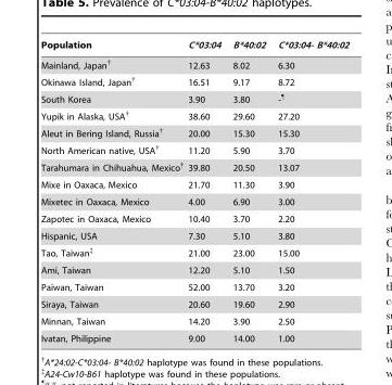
<table><thead><tr><td>Population</td><td>C*03:04</td><td>B*40:02</td><td>C*03:04- B*40:02</td></tr></thead><tbody><tr><td>Mainland, Japan†</td><td>12.63</td><td>8.02</td><td>6.30</td></tr><tr><td>Okinawa Island, Japan†</td><td>16.51</td><td>9.17</td><td>8.72</td></tr><tr><td>South Korea</td><td>3.90</td><td>3.80</td><td>-¶</td></tr><tr><td>Yupik in Alaska, USA†</td><td>38.60</td><td>29.60</td><td>27.20</td></tr><tr><td>Aleut in Bering Island, Russia†</td><td>20.00</td><td>15.30</td><td>15.30</td></tr><tr><td>North American native, USA†</td><td>11.20</td><td>5.90</td><td>3.70</td></tr><tr><td>Tarahumara in Chihuahua, Mexico†</td><td>39.80</td><td>20.50</td><td>13.07</td></tr><tr><td>Mixe in Oaxaca, Mexico</td><td>21.70</td><td>11.30</td><td>3.90</td></tr><tr><td>Mixetec in Oaxaca, Mexico</td><td>4.00</td><td>6.90</td><td>3.00</td></tr><tr><td>Zapotec in Oaxaca, Mexico</td><td>10.40</td><td>3.70</td><td>2.20</td></tr><tr><td>Hispanic, USA</td><td>7.30</td><td>5.10</td><td>3.80</td></tr><tr><td>Tao, Taiwan‡</td><td>21.00</td><td>23.00</td><td>15.00</td></tr><tr><td>Ami, Taiwan</td><td>12.20</td><td>5.10</td><td>1.50</td></tr><tr><td>Paiwan, Taiwan</td><td>52.00</td><td>13.70</td><td>3.20</td></tr><tr><td>Siraya, Taiwan</td><td>20.60</td><td>19.60</td><td>2.90</td></tr><tr><td>Minnan, Taiwan</td><td>14.20</td><td>3.90</td><td>2.50</td></tr><tr><td>Ivatan, Philippine</td><td>9.00</td><td>14.00</td><td>1.00</td></tr></tbody></table>